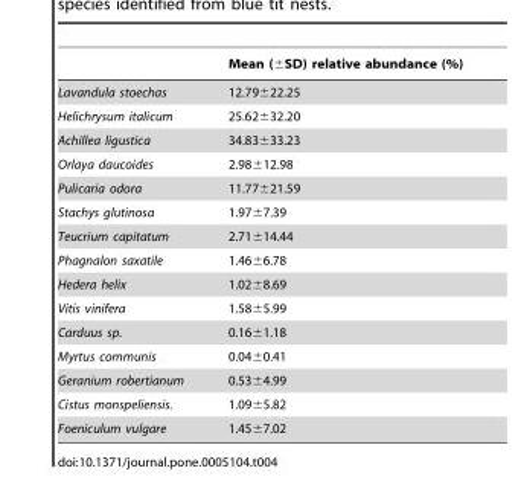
<table><thead><tr><td></td><td>Mean (±SD) relative abundance (%)</td></tr></thead><tbody><tr><td>Lavandula stoechas</td><td>12.79±22.25</td></tr><tr><td>Helichrysum italicum</td><td>25.62±32.20</td></tr><tr><td>Achillea ligustica</td><td>34.83±33.23</td></tr><tr><td>Orlaya daucoides</td><td>2.98±12.98</td></tr><tr><td>Pulicaria odora</td><td>11.77±21.59</td></tr><tr><td>Stachys glutinosa</td><td>1.97±7.39</td></tr><tr><td>Teucrium capitatum</td><td>2.71±14.44</td></tr><tr><td>Phagnalon saxatile</td><td>1.46±6.78</td></tr><tr><td>Hedera helix</td><td>1.02±8.69</td></tr><tr><td>Vitis vinifera</td><td>1.58±5.99</td></tr><tr><td>Carduus sp.</td><td>0.16±1.18</td></tr><tr><td>Myrtus communis</td><td>0.04±0.41</td></tr><tr><td>Geranium robertianum</td><td>0.53±4.99</td></tr><tr><td>Cistus monspeliensis.</td><td>1.09±5.82</td></tr><tr><td>Foeniculum vulgare</td><td>1.45±7.02</td></tr></tbody></table>